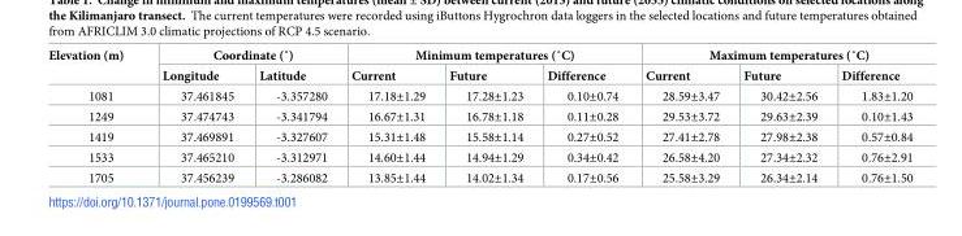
<table><thead><tr><td rowspan="2">Elevation (m)</td><td colspan="2">Coordinate (˚)</td><td colspan="3">Minimum temperatures (˚C)</td><td colspan="3">Maximum temperatures (˚C)</td></tr><tr><td>Longitude</td><td>Latitude</td><td>Current</td><td>Future</td><td>Difference</td><td>Current</td><td>Future</td><td>Difference</td></tr></thead><tbody><tr><td>1081</td><td>37.461845</td><td>-3.357280</td><td>17.18±1.29</td><td>17.28±1.23</td><td>0.10±0.74</td><td>28.59±3.47</td><td>30.42±2.56</td><td>1.83±1.20</td></tr><tr><td>1249</td><td>37.474743</td><td>-3.341794</td><td>16.67±1.31</td><td>16.78±1.18</td><td>0.11±0.28</td><td>29.53±3.72</td><td>29.63±2.39</td><td>0.10±1.43</td></tr><tr><td>1419</td><td>37.469891</td><td>-3.327607</td><td>15.31±1.48</td><td>15.58±1.14</td><td>0.27±0.52</td><td>27.41±2.78</td><td>27.98±2.38</td><td>0.57±0.84</td></tr><tr><td>1533</td><td>37.465210</td><td>-3.312971</td><td>14.60±1.44</td><td>14.94±1.29</td><td>0.34±0.42</td><td>26.58±4.20</td><td>27.34±2.32</td><td>0.76±2.91</td></tr><tr><td>1705</td><td>37.456239</td><td>-3.286082</td><td>13.85±1.44</td><td>14.02±1.34</td><td>0.17±0.56</td><td>25.58±3.29</td><td>26.34±2.14</td><td>0.76±1.50</td></tr></tbody></table>